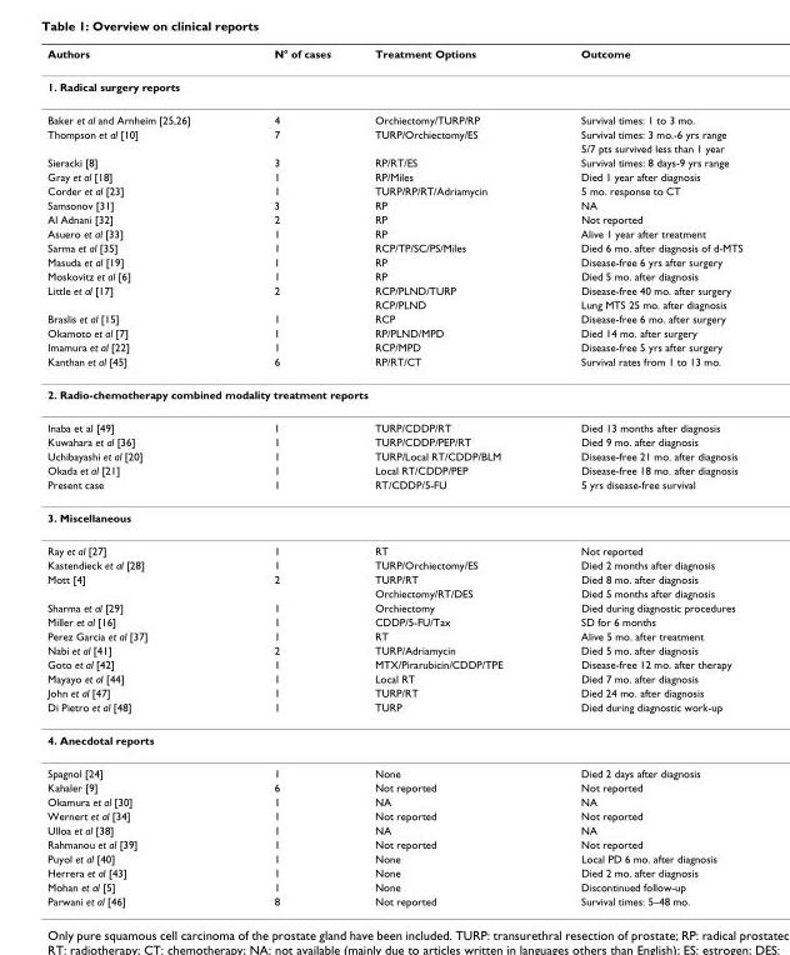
<table><thead><tr><td>Authors</td><td>N° of cases</td><td>Treatment Options</td><td>Outcome</td></tr></thead><tbody><tr><td colspan="4">1. Radical surgery reports</td></tr><tr><td>Baker et al and Arnheim [25,26]</td><td>4</td><td>Orchiectomy/TURP/RP</td><td>Survival times: 1 to 3 mo.</td></tr><tr><td rowspan="2">Thompson et al [10]</td><td>7</td><td>TURP/Orchiectomy/ES</td><td>Survival times: 3 mo.-6 yrs range</td></tr><tr><td></td><td></td><td>5/7 pts survived less than 1 year</td></tr><tr><td>Sieracki [8]</td><td>3</td><td>RP/RT/ES</td><td>Survival times: 8 days-9 yrs range</td></tr><tr><td>Gray et al [18]</td><td>1</td><td>RP/Miles</td><td>Died 1 year after diagnosis</td></tr><tr><td>Corder et al [23]</td><td>1</td><td>TURP/RP/RT/Adriamycin</td><td>5 mo. response to CT</td></tr><tr><td>Samsonov [31]</td><td>3</td><td>RP</td><td>NA</td></tr><tr><td>Al Adnani [32]</td><td>2</td><td>RP</td><td>Not reported</td></tr><tr><td>Asuero et al [33]</td><td>1</td><td>RP</td><td>Alive 1 year after treatment</td></tr><tr><td>Sarma et al [35]</td><td>1</td><td>RCP/TP/SC/PS/Miles</td><td>Died 6 mo. after diagnosis of d-MTS</td></tr><tr><td>Masuda et al [19]</td><td>1</td><td>RP</td><td>Disease-free 6 yrs after surgery</td></tr><tr><td>Moskovitz et al [6]</td><td>1</td><td>RP</td><td>Died 5 mo. after diagnosis</td></tr><tr><td rowspan="2">Little et al [17]</td><td>2</td><td>RCP/PLND/TURP</td><td>Disease-free 40 mo. after surgery</td></tr><tr><td></td><td>RCP/PLND</td><td>Lung MTS 25 mo. after diagnosis</td></tr><tr><td>Braslis et al [15]</td><td>1</td><td>RCP</td><td>Disease-free 6 mo. after surgery</td></tr><tr><td>Okamoto et al [7]</td><td>1</td><td>RP/PLND/MPD</td><td>Died 14 mo. after surgery</td></tr><tr><td>Imamura et al [22]</td><td>1</td><td>RCP/MPD</td><td>Disease-free 5 yrs after surgery</td></tr><tr><td>Kanthan et al [45]</td><td>6</td><td>RP/RT/CT</td><td>Survival rates from 1 to 13 mo.</td></tr><tr><td colspan="4">2. Radio-chemotherapy combined modality treatment reports</td></tr><tr><td>Inaba et al [49]</td><td>1</td><td>TURP/CDDP/RT</td><td>Died 13 months after diagnosis</td></tr><tr><td>Kuwahara et al [36]</td><td>1</td><td>TURP/CDDP/PEP/RT</td><td>Died 9 mo. after diagnosis</td></tr><tr><td>Uchibayashi et al [20]</td><td>1</td><td>TURP/Local RT/CDDP/BLM</td><td>Disease-free 21 mo. after diagnosis</td></tr><tr><td>Okada et al [21]</td><td>1</td><td>Local RT/CDDP/PEP</td><td>Disease-free 18 mo. after diagnosis</td></tr><tr><td>Present case</td><td>1</td><td>RT/CDDP/5-FU</td><td>5 yrs disease-free survival</td></tr><tr><td colspan="4">3. Miscellaneous</td></tr><tr><td>Ray et al [27]</td><td>1</td><td>RT</td><td>Not reported</td></tr><tr><td>Kastendieck et al [28]</td><td>1</td><td>TURP/Orchiectomy/ES</td><td>Died 2 months after diagnosis</td></tr><tr><td rowspan="2">Mott [4]</td><td>2</td><td>TURP/RT</td><td>Died 8 mo. after diagnosis</td></tr><tr><td></td><td>Orchiectomy/RT/DES</td><td>Died 5 months after diagnosis</td></tr><tr><td>Sharma et al [29]</td><td>1</td><td>Orchiectomy</td><td>Died during diagnostic procedures</td></tr><tr><td>Miller et al [16]</td><td>1</td><td>CDDP/5-FU/Tax</td><td>SD for 6 months</td></tr><tr><td>Perez Garcia et al [37]</td><td>1</td><td>RT</td><td>Alive 5 mo. after treatment</td></tr><tr><td>Nabi et al [41]</td><td>2</td><td>TURP/Adriamycin</td><td>Died 5 mo. after diagnosis</td></tr><tr><td>Goto et al [42]</td><td>1</td><td>MTX/Pirarubicin/CDDP/TPE</td><td>Disease-free 12 mo. after therapy</td></tr><tr><td>Mayayo et al [44]</td><td>1</td><td>Local RT</td><td>Died 7 mo. after diagnosis</td></tr><tr><td>John et al [47]</td><td>1</td><td>TURP/RT</td><td>Died 24 mo. after diagnosis</td></tr><tr><td>Di Pietro et al [48]</td><td>1</td><td>TURP</td><td>Died during diagnostic work-up</td></tr><tr><td colspan="4">4. Anecdotal reports</td></tr><tr><td>Spagnol [24]</td><td>1</td><td>None</td><td>Died 2 days after diagnosis</td></tr><tr><td>Kahaler [9]</td><td>6</td><td>Not reported</td><td>Not reported</td></tr><tr><td>Okamura et al [30]</td><td>1</td><td>NA</td><td>NA</td></tr><tr><td>Wernert et al [34]</td><td>1</td><td>Not reported</td><td>Not reported</td></tr><tr><td>Ulloa et al [38]</td><td>1</td><td>NA</td><td>NA</td></tr><tr><td>Rahmanou et al [39]</td><td>1</td><td>Not reported</td><td>Not reported</td></tr><tr><td>Puyol et al [40]</td><td>1</td><td>None</td><td>Local PD 6 mo. after diagnosis</td></tr><tr><td>Herrera et al [43]</td><td>1</td><td>None</td><td>Died 2 mo. after diagnosis</td></tr><tr><td>Mohan et al [5]</td><td>1</td><td>None</td><td>Discontinued follow-up</td></tr><tr><td>Parwani et al [46]</td><td>8</td><td>Not reported</td><td>Survival times: 5–48 mo.</td></tr></tbody></table>